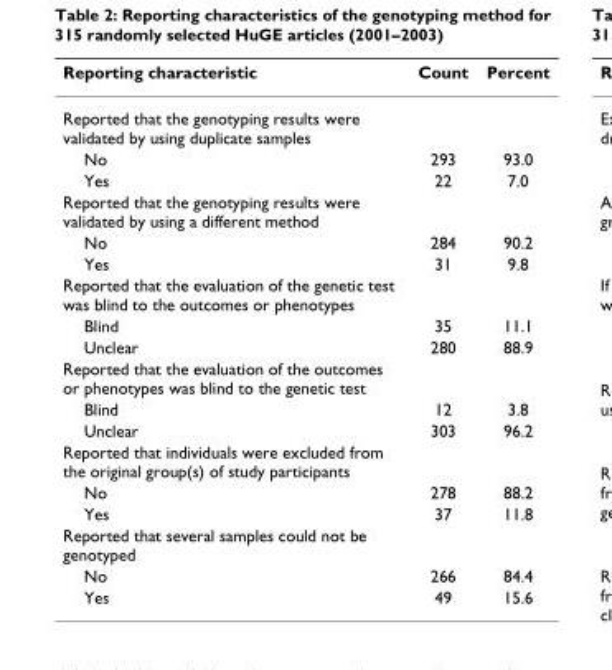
<table><thead><tr><td>Reporting characteristic</td><td>Count</td><td>Percent</td></tr></thead><tbody><tr><td colspan="3">Reported that the genotyping results were validated by using duplicate samples</td></tr><tr><td>No</td><td>293</td><td>93.0</td></tr><tr><td>Yes</td><td>22</td><td>7.0</td></tr><tr><td colspan="3">Reported that the genotyping results were validated by using a different method</td></tr><tr><td>No</td><td>284</td><td>90.2</td></tr><tr><td>Yes</td><td>31</td><td>9.8</td></tr><tr><td colspan="3">Reported that the evaluation of the genetic test was blind to the outcomes or phenotypes</td></tr><tr><td>Blind</td><td>35</td><td>11.1</td></tr><tr><td>Unclear</td><td>280</td><td>88.9</td></tr><tr><td colspan="3">Reported that the evaluation of the outcomes or phenotypes was blind to the genetic test</td></tr><tr><td>Blind</td><td>12</td><td>3.8</td></tr><tr><td>Unclear</td><td>303</td><td>96.2</td></tr><tr><td colspan="3">Reported that individuals were excluded from the original group(s) of study participants</td></tr><tr><td>No</td><td>278</td><td>88.2</td></tr><tr><td>Yes</td><td>37</td><td>11.8</td></tr><tr><td colspan="3">Reported that several samples could not be genotyped</td></tr><tr><td>No</td><td>266</td><td>84.4</td></tr><tr><td>Yes</td><td>49</td><td>15.6</td></tr></tbody></table>